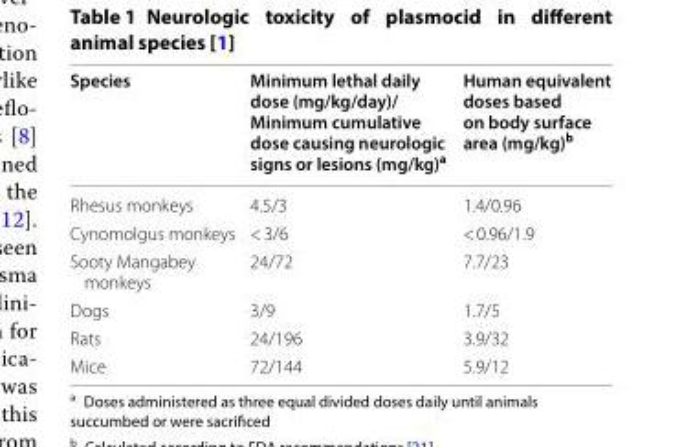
<table><thead><tr><td>Species</td><td>Minimum lethal daily dose (mg/kg/day)/ Minimum cumulative dose causing neurologic signs or lesions (mg/kg)<sup>a</sup></td><td>Human equivalent doses based on body surface area (mg/kg)<sup>b</sup></td></tr></thead><tbody><tr><td>Rhesus monkeys</td><td>4.5/3</td><td>1.4/0.96</td></tr><tr><td>Cynomolgus monkeys</td><td>&lt; 3/6</td><td>&lt; 0.96/1.9</td></tr><tr><td>Sooty Mangabey monkeys</td><td>24/72</td><td>7.7/23</td></tr><tr><td>Dogs</td><td>3/9</td><td>1.7/5</td></tr><tr><td>Rats</td><td>24/196</td><td>3.9/32</td></tr><tr><td>Mice</td><td>72/144</td><td>5.9/12</td></tr></tbody></table>